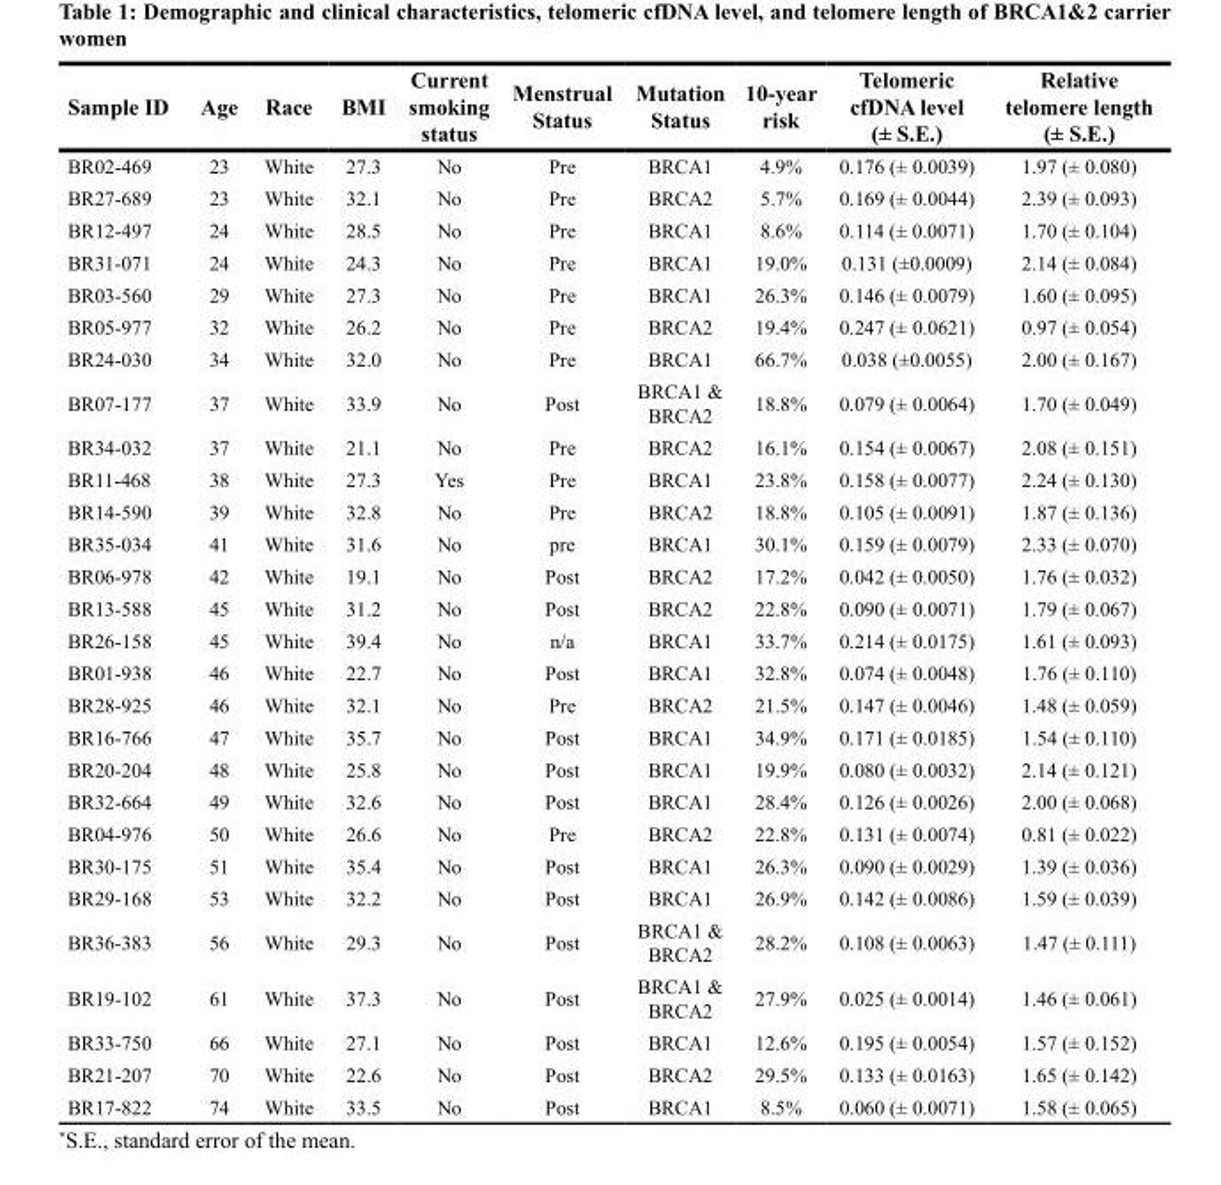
<table><thead><tr><td>Sample ID</td><td>Age</td><td>Race</td><td>BMI</td><td>Current smoking status</td><td>Menstrual Status</td><td>Mutation Status</td><td>10-year risk</td><td>Telomeric cfDNA level (± S.E.)</td><td>Relative telomere length (± S.E.)</td></tr></thead><tbody><tr><td>BR02-469</td><td>23</td><td>White</td><td>27.3</td><td>No</td><td>Pre</td><td>BRCA1</td><td>4.9%</td><td>0.176 (± 0.0039)</td><td>1.97 (± 0.080)</td></tr><tr><td>BR27-689</td><td>23</td><td>White</td><td>32.1</td><td>No</td><td>Pre</td><td>BRCA2</td><td>5.7%</td><td>0.169 (± 0.0044)</td><td>2.39 (± 0.093)</td></tr><tr><td>BR12-497</td><td>24</td><td>White</td><td>28.5</td><td>No</td><td>Pre</td><td>BRCA1</td><td>8.6%</td><td>0.114 (± 0.0071)</td><td>1.70 (± 0.104)</td></tr><tr><td>BR31-071</td><td>24</td><td>White</td><td>24.3</td><td>No</td><td>Pre</td><td>BRCA1</td><td>19.0%</td><td>0.131 (±0.0009)</td><td>2.14 (± 0.084)</td></tr><tr><td>BR03-560</td><td>29</td><td>White</td><td>27.3</td><td>No</td><td>Pre</td><td>BRCA1</td><td>26.3%</td><td>0.146 (± 0.0079)</td><td>1.60 (± 0.095)</td></tr><tr><td>BR05-977</td><td>32</td><td>White</td><td>26.2</td><td>No</td><td>Pre</td><td>BRCA2</td><td>19.4%</td><td>0.247 (± 0.0621)</td><td>0.97 (± 0.054)</td></tr><tr><td>BR24-030</td><td>34</td><td>White</td><td>32.0</td><td>No</td><td>Pre</td><td>BRCA1</td><td>66.7%</td><td>0.038 (±0.0055)</td><td>2.00 (± 0.167)</td></tr><tr><td>BR07-177</td><td>37</td><td>White</td><td>33.9</td><td>No</td><td>Post</td><td>BRCA1 &amp; BRCA2</td><td>18.8%</td><td>0.079 (± 0.0064)</td><td>1.70 (± 0.049)</td></tr><tr><td>BR34-032</td><td>37</td><td>White</td><td>21.1</td><td>No</td><td>Pre</td><td>BRCA2</td><td>16.1%</td><td>0.154 (± 0.0067)</td><td>2.08 (± 0.151)</td></tr><tr><td>BR11-468</td><td>38</td><td>White</td><td>27.3</td><td>Yes</td><td>Pre</td><td>BRCA1</td><td>23.8%</td><td>0.158 (± 0.0077)</td><td>2.24 (± 0.130)</td></tr><tr><td>BR14-590</td><td>39</td><td>White</td><td>32.8</td><td>No</td><td>Pre</td><td>BRCA2</td><td>18.8%</td><td>0.105 (± 0.0091)</td><td>1.87 (± 0.136)</td></tr><tr><td>BR35-034</td><td>41</td><td>White</td><td>31.6</td><td>No</td><td>pre</td><td>BRCA1</td><td>30.1%</td><td>0.159 (± 0.0079)</td><td>2.33 (± 0.070)</td></tr><tr><td>BR06-978</td><td>42</td><td>White</td><td>19.1</td><td>No</td><td>Post</td><td>BRCA2</td><td>17.2%</td><td>0.042 (± 0.0050)</td><td>1.76 (± 0.032)</td></tr><tr><td>BR13-588</td><td>45</td><td>White</td><td>31.2</td><td>No</td><td>Post</td><td>BRCA2</td><td>22.8%</td><td>0.090 (± 0.0071)</td><td>1.79 (± 0.067)</td></tr><tr><td>BR26-158</td><td>45</td><td>White</td><td>39.4</td><td>No</td><td>n/a</td><td>BRCA1</td><td>33.7%</td><td>0.214 (± 0.0175)</td><td>1.61 (± 0.093)</td></tr><tr><td>BR01-938</td><td>46</td><td>White</td><td>22.7</td><td>No</td><td>Post</td><td>BRCA1</td><td>32.8%</td><td>0.074 (± 0.0048)</td><td>1.76 (± 0.110)</td></tr><tr><td>BR28-925</td><td>46</td><td>White</td><td>32.1</td><td>No</td><td>Pre</td><td>BRCA2</td><td>21.5%</td><td>0.147 (± 0.0046)</td><td>1.48 (± 0.059)</td></tr><tr><td>BR16-766</td><td>47</td><td>White</td><td>35.7</td><td>No</td><td>Post</td><td>BRCA1</td><td>34.9%</td><td>0.171 (± 0.0185)</td><td>1.54 (± 0.110)</td></tr><tr><td>BR20-204</td><td>48</td><td>White</td><td>25.8</td><td>No</td><td>Post</td><td>BRCA1</td><td>19.9%</td><td>0.080 (± 0.0032)</td><td>2.14 (± 0.121)</td></tr><tr><td>BR32-664</td><td>49</td><td>White</td><td>32.6</td><td>No</td><td>Post</td><td>BRCA1</td><td>28.4%</td><td>0.126 (± 0.0026)</td><td>2.00 (± 0.068)</td></tr><tr><td>BR04-976</td><td>50</td><td>White</td><td>26.6</td><td>No</td><td>Pre</td><td>BRCA2</td><td>22.8%</td><td>0.131 (± 0.0074)</td><td>0.81 (± 0.022)</td></tr><tr><td>BR30-175</td><td>51</td><td>White</td><td>35.4</td><td>No</td><td>Post</td><td>BRCA1</td><td>26.3%</td><td>0.090 (± 0.0029)</td><td>1.39 (± 0.036)</td></tr><tr><td>BR29-168</td><td>53</td><td>White</td><td>32.2</td><td>No</td><td>Post</td><td>BRCA1</td><td>26.9%</td><td>0.142 (± 0.0086)</td><td>1.59 (± 0.039)</td></tr><tr><td>BR36-383</td><td>56</td><td>White</td><td>29.3</td><td>No</td><td>Post</td><td>BRCA1 &amp; BRCA2</td><td>28.2%</td><td>0.108 (± 0.0063)</td><td>1.47 (± 0.111)</td></tr><tr><td>BR19-102</td><td>61</td><td>White</td><td>37.3</td><td>No</td><td>Post</td><td>BRCA1 &amp; BRCA2</td><td>27.9%</td><td>0.025 (± 0.0014)</td><td>1.46 (± 0.061)</td></tr><tr><td>BR33-750</td><td>66</td><td>White</td><td>27.1</td><td>No</td><td>Post</td><td>BRCA1</td><td>12.6%</td><td>0.195 (± 0.0054)</td><td>1.57 (± 0.152)</td></tr><tr><td>BR21-207</td><td>70</td><td>White</td><td>22.6</td><td>No</td><td>Post</td><td>BRCA2</td><td>29.5%</td><td>0.133 (± 0.0163)</td><td>1.65 (± 0.142)</td></tr><tr><td>BR17-822</td><td>74</td><td>White</td><td>33.5</td><td>No</td><td>Post</td><td>BRCA1</td><td>8.5%</td><td>0.060 (± 0.0071)</td><td>1.58 (± 0.065)</td></tr></tbody></table>